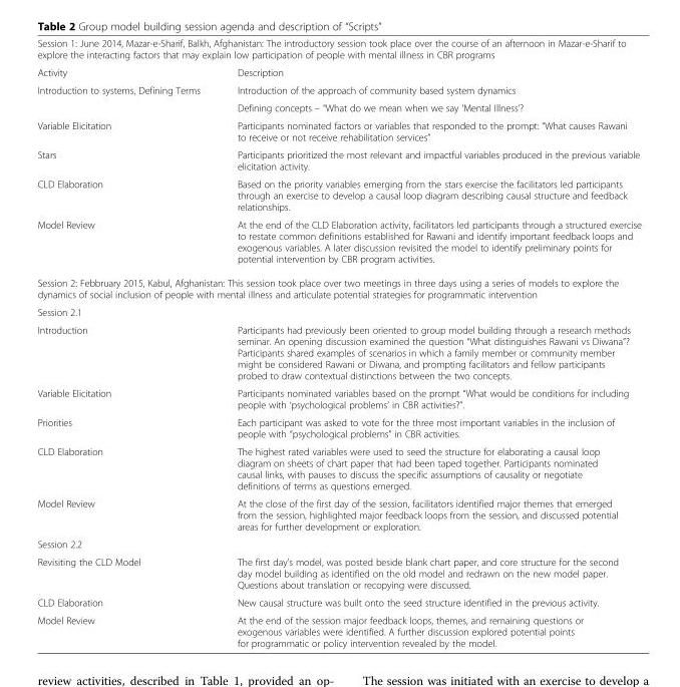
<table><tbody><tr><td colspan="2">Session 1: June 2014, Mazar-e-Sharif, Balkh, Afghanistan: The introductory session took place over the course of an afternoon in Mazar-e-Sharif to explore the interacting factors that may explain low participation of people with mental illness in CBR programs</td></tr><tr><td>Activity</td><td>Description</td></tr><tr><td rowspan="2">Introduction to systems, Defining Terms</td><td>Introduction of the approach of community based system dynamics</td></tr><tr><td>Defining concepts – “What do we mean when we say ‘Mental Illness’?</td></tr><tr><td>Variable Elicitation</td><td>Participants nominated factors or variables that responded to the prompt: “What causes Rawani to receive or not receive rehabilitation services”</td></tr><tr><td>Stars</td><td>Participants prioritized the most relevant and impactful variables produced in the previous variable elicitation activity.</td></tr><tr><td>CLD Elaboration</td><td>Based on the priority variables emerging from the stars exercise the facilitators led participants through an exercise to develop a causal loop diagram describing causal structure and feedback relationships.</td></tr><tr><td>Model Review</td><td>At the end of the CLD Elaboration activity, facilitators led participants through a structured exercise to restate common definitions established for Rawani and identify important feedback loops and exogenous variables. A later discussion revisited the model to identify preliminary points for potential intervention by CBR program activities.</td></tr><tr><td colspan="2">Session 2: Febbruary 2015, Kabul, Afghanistan: This session took place over two meetings in three days using a series of models to explore the dynamics of social inclusion of people with mental illness and articulate potential strategies for programmatic intervention</td></tr><tr><td colspan="2">Session 2.1</td></tr><tr><td>Introduction</td><td>Participants had previously been oriented to group model building through a research methods seminar. An opening discussion examined the question “What distinguishes Rawani vs Diwana”? Participants shared examples of scenarios in which a family member or community member might be considered Rawani or Diwana, and prompting facilitators and fellow participants probed to draw contextual distinctions between the two concepts.</td></tr><tr><td>Variable Elicitation</td><td>Participants nominated variables based on the prompt “What would be conditions for including people with ‘psychological problems’ in CBR activities?”.</td></tr><tr><td>Priorities</td><td>Each participant was asked to vote for the three most important variables in the inclusion of people with “psychological problems” in CBR activities.</td></tr><tr><td>CLD Elaboration</td><td>The highest rated variables were used to seed the structure for elaborating a causal loop diagram on sheets of chart paper that had been taped together. Participants nominated causal links, with pauses to discuss the specific assumptions of causality or negotiate definitions of terms as questions emerged.</td></tr><tr><td>Model Review</td><td>At the close of the first day of the session, facilitators identified major themes that emerged from the session, highlighted major feedback loops from the session, and discussed potential areas for further development or exploration.</td></tr><tr><td colspan="2">Session 2.2</td></tr><tr><td>Revisiting the CLD Model</td><td>The first day’s model, was posted beside blank chart paper, and core structure for the second day model building as identified on the old model and redrawn on the new model paper. Questions about translation or recopying were discussed.</td></tr><tr><td>CLD Elaboration</td><td>New causal structure was built onto the seed structure identified in the previous activity.</td></tr><tr><td>Model Review</td><td>At the end of the session major feedback loops, themes, and remaining questions or exogenous variables were identified. A further discussion explored potential points for programmatic or policy intervention revealed by the model.</td></tr></tbody></table>